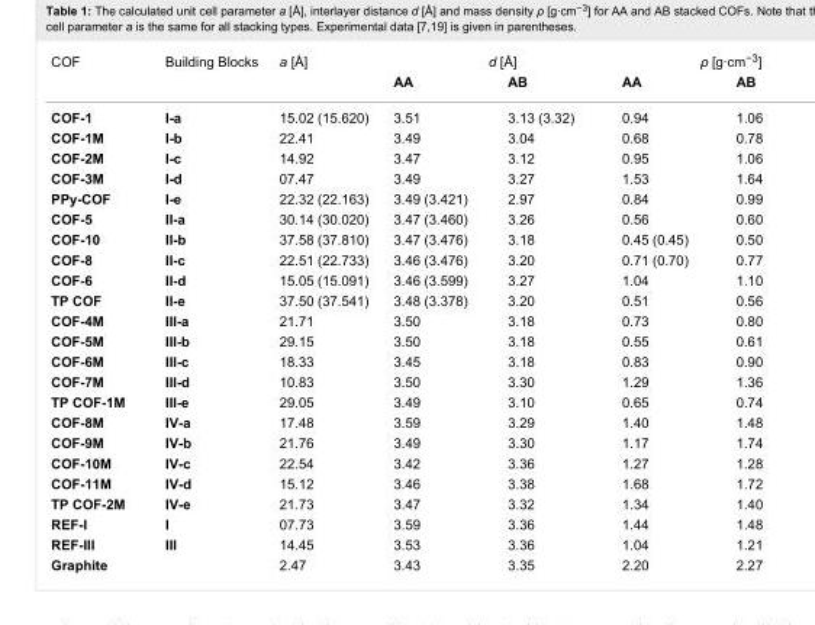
<table><tbody><tr><td rowspan="2">COF</td><td rowspan="2">Building Blocks</td><td>a [Å]</td><td colspan="2">d [Å]</td><td colspan="2">ρ [g·cm<sup>−3</sup>]</td></tr><tr><td></td><td>AA</td><td>AB</td><td>AA</td><td>AB</td></tr><tr><td>COF-1</td><td>I-a</td><td>15.02 (15.620)</td><td>3.51</td><td>3.13 (3.32)</td><td>0.94</td><td>1.06</td></tr><tr><td>COF-1M</td><td>I-b</td><td>22.41</td><td>3.49</td><td>3.04</td><td>0.68</td><td>0.78</td></tr><tr><td>COF-2M</td><td>I-c</td><td>14.92</td><td>3.47</td><td>3.12</td><td>0.95</td><td>1.06</td></tr><tr><td>COF-3M</td><td>I-d</td><td>07.47</td><td>3.49</td><td>3.27</td><td>1.53</td><td>1.64</td></tr><tr><td>PPy-COF</td><td>I-e</td><td>22.32 (22.163)</td><td>3.49 (3.421)</td><td>2.97</td><td>0.84</td><td>0.99</td></tr><tr><td>COF-5</td><td>II-a</td><td>30.14 (30.020)</td><td>3.47 (3.460)</td><td>3.26</td><td>0.56</td><td>0.60</td></tr><tr><td>COF-10</td><td>II-b</td><td>37.58 (37.810)</td><td>3.47 (3.476)</td><td>3.18</td><td>0.45 (0.45)</td><td>0.50</td></tr><tr><td>COF-8</td><td>II-c</td><td>22.51 (22.733)</td><td>3.46 (3.476)</td><td>3.20</td><td>0.71 (0.70)</td><td>0.77</td></tr><tr><td>COF-6</td><td>II-d</td><td>15.05 (15.091)</td><td>3.46 (3.599)</td><td>3.27</td><td>1.04</td><td>1.10</td></tr><tr><td>TP COF</td><td>II-e</td><td>37.50 (37.541)</td><td>3.48 (3.378)</td><td>3.20</td><td>0.51</td><td>0.56</td></tr><tr><td>COF-4M</td><td>III-a</td><td>21.71</td><td>3.50</td><td>3.18</td><td>0.73</td><td>0.80</td></tr><tr><td>COF-5M</td><td>III-b</td><td>29.15</td><td>3.50</td><td>3.18</td><td>0.55</td><td>0.61</td></tr><tr><td>COF-6M</td><td>III-c</td><td>18.33</td><td>3.45</td><td>3.18</td><td>0.83</td><td>0.90</td></tr><tr><td>COF-7M</td><td>III-d</td><td>10.83</td><td>3.50</td><td>3.30</td><td>1.29</td><td>1.36</td></tr><tr><td>TP COF-1M</td><td>III-e</td><td>29.05</td><td>3.49</td><td>3.10</td><td>0.65</td><td>0.74</td></tr><tr><td>COF-8M</td><td>IV-a</td><td>17.48</td><td>3.59</td><td>3.29</td><td>1.40</td><td>1.48</td></tr><tr><td>COF-9M</td><td>IV-b</td><td>21.76</td><td>3.49</td><td>3.30</td><td>1.17</td><td>1.74</td></tr><tr><td>COF-10M</td><td>IV-c</td><td>22.54</td><td>3.42</td><td>3.36</td><td>1.27</td><td>1.28</td></tr><tr><td>COF-11M</td><td>IV-d</td><td>15.12</td><td>3.46</td><td>3.38</td><td>1.68</td><td>1.72</td></tr><tr><td>TP COF-2M</td><td>IV-e</td><td>21.73</td><td>3.47</td><td>3.32</td><td>1.34</td><td>1.40</td></tr><tr><td>REF-I</td><td>I</td><td>07.73</td><td>3.59</td><td>3.36</td><td>1.44</td><td>1.48</td></tr><tr><td>REF-III</td><td>III</td><td>14.45</td><td>3.53</td><td>3.36</td><td>1.04</td><td>1.21</td></tr><tr><td>Graphite</td><td></td><td>2.47</td><td>3.43</td><td>3.35</td><td>2.20</td><td>2.27</td></tr></tbody></table>